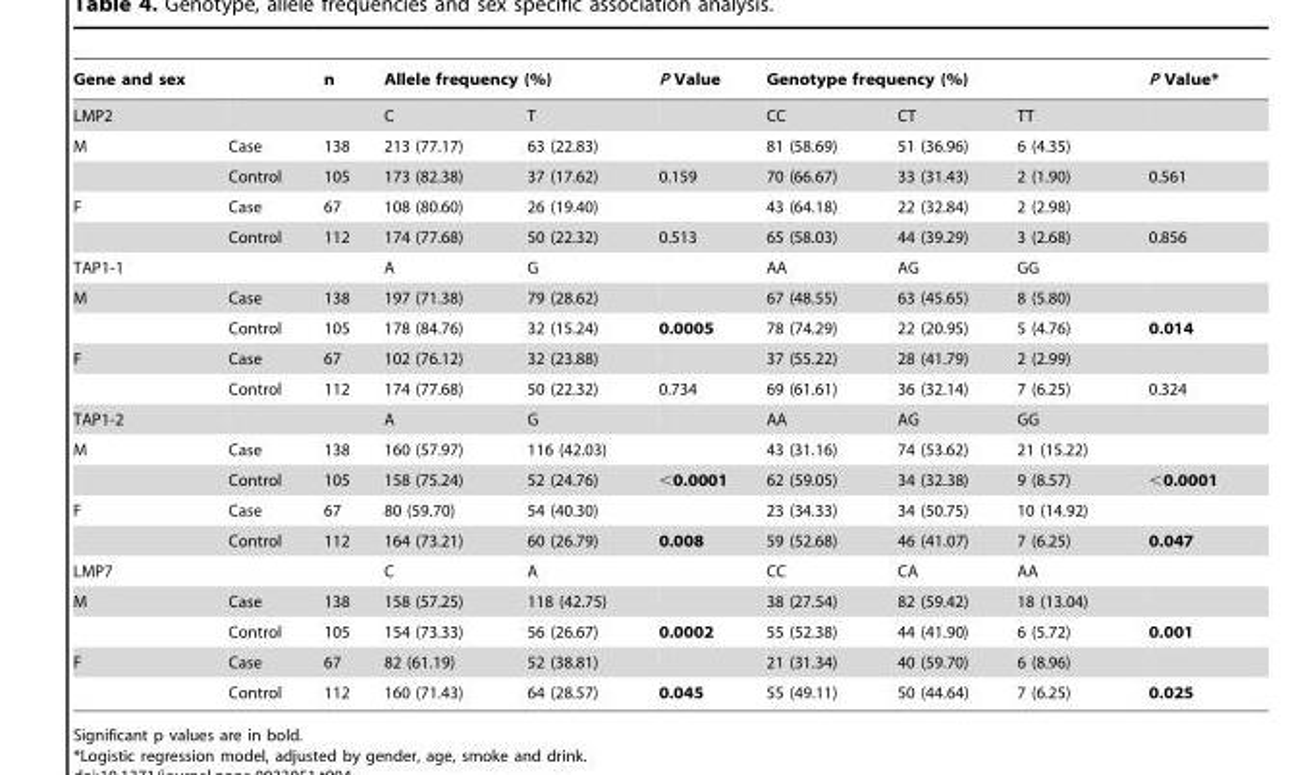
<table><thead><tr><td rowspan="2">Gene and sex LMP2</td><td rowspan="2"></td><td rowspan="2">n</td><td colspan="2">Allele frequency (%)</td><td rowspan="2">P Value</td><td colspan="3">Genotype frequency (%)</td><td rowspan="2">P Value*</td></tr><tr><td>C</td><td>T</td><td>CC</td><td>CT</td><td>TT</td></tr></thead><tbody><tr><td rowspan="2">M</td><td>Case</td><td>138</td><td>213 (77.17)</td><td>63 (22.83)</td><td></td><td>81 (58.69)</td><td>51 (36.96)</td><td>6 (4.35)</td><td></td></tr><tr><td>Control</td><td>105</td><td>173 (82.38)</td><td>37 (17.62)</td><td>0.159</td><td>70 (66.67)</td><td>33 (31.43)</td><td>2 (1.90)</td><td>0.561</td></tr><tr><td rowspan="2">F</td><td>Case</td><td>67</td><td>108 (80.60)</td><td>26 (19.40)</td><td></td><td>43 (64.18)</td><td>22 (32.84)</td><td>2 (2.98)</td><td></td></tr><tr><td>Control</td><td>112</td><td>174 (77.68)</td><td>50 (22.32)</td><td>0.513</td><td>65 (58.03)</td><td>44 (39.29)</td><td>3 (2.68)</td><td>0.856</td></tr><tr><td>TAP1-1</td><td></td><td></td><td>A</td><td>G</td><td></td><td>AA</td><td>AG</td><td>GG</td><td></td></tr><tr><td rowspan="2">M</td><td>Case</td><td>138</td><td>197 (71.38)</td><td>79 (28.62)</td><td></td><td>67 (48.55)</td><td>63 (45.65)</td><td>8 (5.80)</td><td></td></tr><tr><td>Control</td><td>105</td><td>178 (84.76)</td><td>32 (15.24)</td><td>0.0005</td><td>78 (74.29)</td><td>22 (20.95)</td><td>5 (4.76)</td><td>0.014</td></tr><tr><td rowspan="2">F</td><td>Case</td><td>67</td><td>102 (76.12)</td><td>32 (23.88)</td><td></td><td>37 (55.22)</td><td>28 (41.79)</td><td>2 (2.99)</td><td></td></tr><tr><td>Control</td><td>112</td><td>174 (77.68)</td><td>50 (22.32)</td><td>0.734</td><td>69 (61.61)</td><td>36 (32.14)</td><td>7 (6.25)</td><td>0.324</td></tr><tr><td>TAP1-2</td><td></td><td></td><td>A</td><td>G</td><td></td><td>AA</td><td>AG</td><td>GG</td><td></td></tr><tr><td rowspan="2">M</td><td>Case</td><td>138</td><td>160 (57.97)</td><td>116 (42.03)</td><td></td><td>43 (31.16)</td><td>74 (53.62)</td><td>21 (15.22)</td><td></td></tr><tr><td>Control</td><td>105</td><td>158 (75.24)</td><td>52 (24.76)</td><td>&lt;0.0001</td><td>62 (59.05)</td><td>34 (32.38)</td><td>9 (8.57)</td><td>&lt;0.0001</td></tr><tr><td rowspan="2">F</td><td>Case</td><td>67</td><td>80 (59.70)</td><td>54 (40.30)</td><td></td><td>23 (34.33)</td><td>34 (50.75)</td><td>10 (14.92)</td><td></td></tr><tr><td>Control</td><td>112</td><td>164 (73.21)</td><td>60 (26.79)</td><td>0.008</td><td>59 (52.68)</td><td>46 (41.07)</td><td>7 (6.25)</td><td>0.047</td></tr><tr><td>LMP7</td><td></td><td></td><td>C</td><td>A</td><td></td><td>CC</td><td>CA</td><td>AA</td><td></td></tr><tr><td rowspan="2">M</td><td>Case</td><td>138</td><td>158 (57.25)</td><td>118 (42.75)</td><td></td><td>38 (27.54)</td><td>82 (59.42)</td><td>18 (13.04)</td><td></td></tr><tr><td>Control</td><td>105</td><td>154 (73.33)</td><td>56 (26.67)</td><td>0.0002</td><td>55 (52.38)</td><td>44 (41.90)</td><td>6 (5.72)</td><td>0.001</td></tr><tr><td rowspan="2">F</td><td>Case</td><td>67</td><td>82 (61.19)</td><td>52 (38.81)</td><td></td><td>21 (31.34)</td><td>40 (59.70)</td><td>6 (8.96)</td><td></td></tr><tr><td>Control</td><td>112</td><td>160 (71.43)</td><td>64 (28.57)</td><td>0.045</td><td>55 (49.11)</td><td>50 (44.64)</td><td>7 (6.25)</td><td>0.025</td></tr></tbody></table>